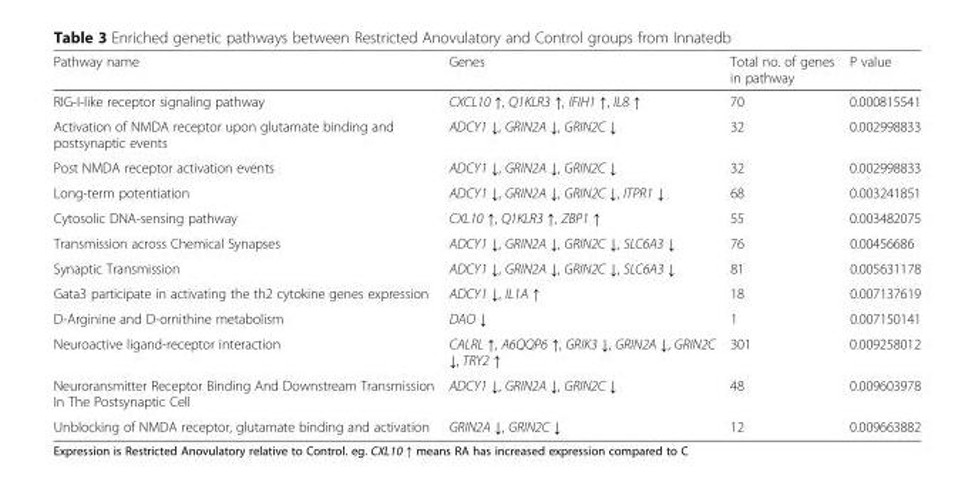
<table><thead><tr><td>Pathway name</td><td>Genes</td><td>Total no. of genes in pathway</td><td>P value</td></tr></thead><tbody><tr><td>RIG-I-like receptor signaling pathway</td><td>CXCL10 ↑, Q1KLR3 ↑, IFIH1 ↑, IL8 ↑</td><td>70</td><td>0.000815541</td></tr><tr><td>Activation of NMDA receptor upon glutamate binding and postsynaptic events</td><td>ADCY1 ↓, GRIN2A ↓, GRIN2C ↓</td><td>32</td><td>0.002998833</td></tr><tr><td>Post NMDA receptor activation events</td><td>ADCY1 ↓, GRIN2A ↓, GRIN2C ↓</td><td>32</td><td>0.002998833</td></tr><tr><td>Long-term potentiation</td><td>ADCY1 ↓, GRIN2A ↓, GRIN2C ↓, ITPR1 ↓</td><td>68</td><td>0.003241851</td></tr><tr><td>Cytosolic DNA-sensing pathway</td><td>CXL10 ↑, Q1KLR3 ↑, ZBP1 ↑</td><td>55</td><td>0.003482075</td></tr><tr><td>Transmission across Chemical Synapses</td><td>ADCY1 ↓, GRIN2A ↓, GRIN2C ↓, SLC6A3 ↓</td><td>76</td><td>0.00456686</td></tr><tr><td>Synaptic Transmission</td><td>ADCY1 ↓, GRIN2A ↓, GRIN2C ↓, SLC6A3 ↓</td><td>81</td><td>0.005631178</td></tr><tr><td>Gata3 participate in activating the th2 cytokine genes expression</td><td>ADCY1 ↓, IL1A ↑</td><td>18</td><td>0.007137619</td></tr><tr><td>D-Arginine and D-ornithine metabolism</td><td>DAO ↓</td><td>1</td><td>0.007150141</td></tr><tr><td>Neuroactive ligand-receptor interaction</td><td>CALRL ↑, A6QQP6 ↑, GRIK3 ↓, GRIN2A ↓, GRIN2C ↓, TRY2 ↑</td><td>301</td><td>0.009258012</td></tr><tr><td>Neuroransmitter Receptor Binding And Downstream Transmission In The Postsynaptic Cell</td><td>ADCY1 ↓, GRIN2A ↓, GRIN2C ↓</td><td>48</td><td>0.009603978</td></tr><tr><td>Unblocking of NMDA receptor, glutamate binding and activation</td><td>GRIN2A ↓, GRIN2C ↓</td><td>12</td><td>0.009663882</td></tr></tbody></table>